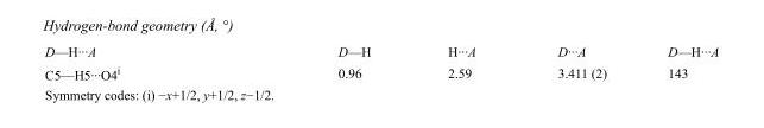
<table><tbody><tr><td>D—H···A</td><td>D—H</td><td>H···A</td><td>D···A</td><td>D—H···A</td></tr><tr><td>C5—H5···O4<sup>i</sup></td><td>0.96</td><td>2.59</td><td>3.411 (2)</td><td>143</td></tr></tbody></table>